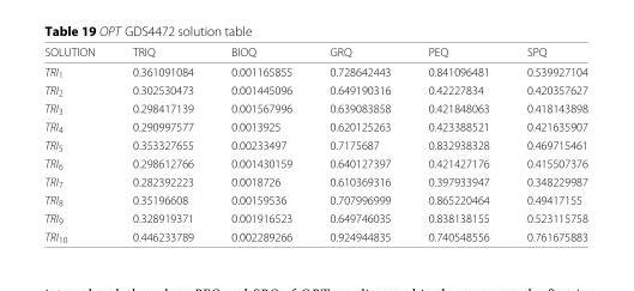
<table><thead><tr><td>SOLUTION</td><td>TRIQ</td><td>BIOQ</td><td>GRQ</td><td>PEQ</td><td>SPQ</td></tr></thead><tbody><tr><td>TRI<sub>1</sub></td><td>0.361091084</td><td>0.001165855</td><td>0.728642443</td><td>0.841096481</td><td>0.539927104</td></tr><tr><td>TRI<sub>2</sub></td><td>0.302530473</td><td>0.001445096</td><td>0.649190316</td><td>0.42227834</td><td>0.420357627</td></tr><tr><td>TRI<sub>3</sub></td><td>0.298417139</td><td>0.001567996</td><td>0.639083858</td><td>0.421848063</td><td>0.418143898</td></tr><tr><td>TRI<sub>4</sub></td><td>0.290997577</td><td>0.0013925</td><td>0.620125263</td><td>0.423388521</td><td>0.421635907</td></tr><tr><td>TRI<sub>5</sub></td><td>0.353327655</td><td>0.00233497</td><td>0.7175687</td><td>0.832938328</td><td>0.469715461</td></tr><tr><td>TRI<sub>6</sub></td><td>0.298612766</td><td>0.001430159</td><td>0.640127397</td><td>0.421427176</td><td>0.415507376</td></tr><tr><td>TRI<sub>7</sub></td><td>0.282392223</td><td>0.0018726</td><td>0.610369316</td><td>0.397933947</td><td>0.348229987</td></tr><tr><td>TRI<sub>8</sub></td><td>0.35196608</td><td>0.00159536</td><td>0.707996999</td><td>0.865220464</td><td>0.49417155</td></tr><tr><td>TRI<sub>9</sub></td><td>0.328919371</td><td>0.001916523</td><td>0.649746035</td><td>0.838138155</td><td>0.523115758</td></tr><tr><td>TRI<sub>10</sub></td><td>0.446233789</td><td>0.002289266</td><td>0.924944835</td><td>0.740548556</td><td>0.761675883</td></tr></tbody></table>